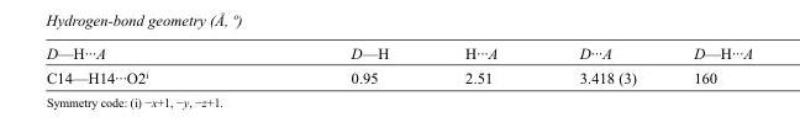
<table><tbody><tr><td>D—H···A</td><td>D—H</td><td>H···A</td><td>D···A</td><td>D—H···A</td></tr><tr><td>C14—H14···O2<sup>i</sup></td><td>0.95</td><td>2.51</td><td>3.418 (3)</td><td>160</td></tr></tbody></table>